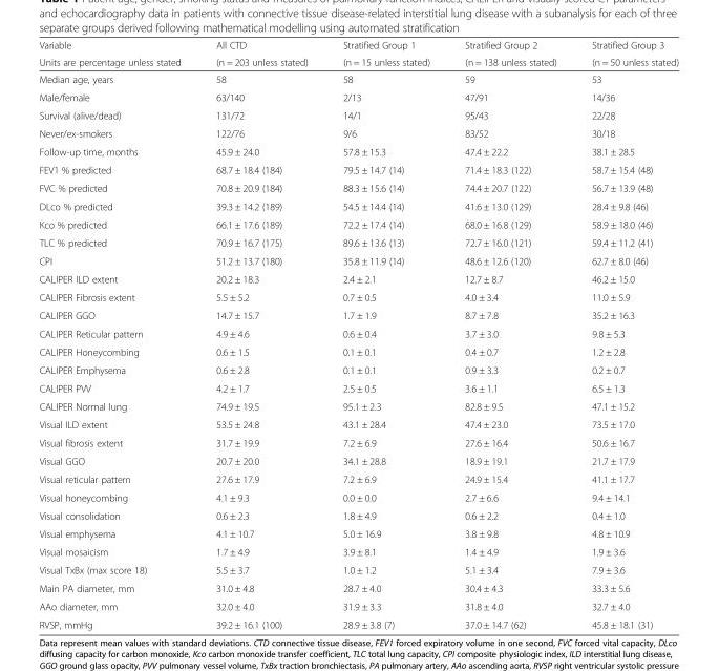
<table><thead><tr><td rowspan="2">Variable Units are percentage unless stated</td><td rowspan="2">All CTD (n = 203 unless stated)</td><td rowspan="2">Stratified Group 1 (n = 15 unless stated)</td><td rowspan="2">Stratified Group 2 (n = 138 unless stated)</td><td rowspan="2">Stratified Group 3 (n = 50 unless stated)</td></tr><tr></tr></thead><tbody><tr><td>Median age, years</td><td>58</td><td>58</td><td>59</td><td>53</td></tr><tr><td>Male/female</td><td>63/140</td><td>2/13</td><td>47/91</td><td>14/36</td></tr><tr><td>Survival (alive/dead)</td><td>131/72</td><td>14/1</td><td>95/43</td><td>22/28</td></tr><tr><td>Never/ex-smokers</td><td>122/76</td><td>9/6</td><td>83/52</td><td>30/18</td></tr><tr><td>Follow-up time, months</td><td>45.9 ± 24.0</td><td>57.8 ± 15.3</td><td>47.4 ± 22.2</td><td>38.1 ± 28.5</td></tr><tr><td>FEV1 % predicted</td><td>68.7 ± 18.4 (184)</td><td>79.5 ± 14.7 (14)</td><td>71.4 ± 18.3 (122)</td><td>58.7 ± 15.4 (48)</td></tr><tr><td>FVC % predicted</td><td>70.8 ± 20.9 (184)</td><td>88.3 ± 15.6 (14)</td><td>74.4 ± 20.7 (122)</td><td>56.7 ± 13.9 (48)</td></tr><tr><td>DLco % predicted</td><td>39.3 ± 14.2 (189)</td><td>54.5 ± 14.4 (14)</td><td>41.6 ± 13.0 (129)</td><td>28.4 ± 9.8 (46)</td></tr><tr><td>Kco % predicted</td><td>66.1 ± 17.6 (189)</td><td>72.2 ± 17.4 (14)</td><td>68.0 ± 16.8 (129)</td><td>58.9 ± 18.0 (46)</td></tr><tr><td>TLC % predicted</td><td>70.9 ± 16.7 (175)</td><td>89.6 ± 13.6 (13)</td><td>72.7 ± 16.0 (121)</td><td>59.4 ± 11.2 (41)</td></tr><tr><td>CPI</td><td>51.2 ± 13.7 (180)</td><td>35.8 ± 11.9 (14)</td><td>48.6 ± 12.6 (120)</td><td>62.7 ± 8.0 (46)</td></tr><tr><td>CALIPER ILD extent</td><td>20.2 ± 18.3</td><td>2.4 ± 2.1</td><td>12.7 ± 8.7</td><td>46.2 ± 15.0</td></tr><tr><td>CALIPER Fibrosis extent</td><td>5.5 ± 5.2</td><td>0.7 ± 0.5</td><td>4.0 ± 3.4</td><td>11.0 ± 5.9</td></tr><tr><td>CALIPER GGO</td><td>14.7 ± 15.7</td><td>1.7 ± 1.9</td><td>8.7 ± 7.8</td><td>35.2 ± 16.3</td></tr><tr><td>CALIPER Reticular pattern</td><td>4.9 ± 4.6</td><td>0.6 ± 0.4</td><td>3.7 ± 3.0</td><td>9.8 ± 5.3</td></tr><tr><td>CALIPER Honeycombing</td><td>0.6 ± 1.5</td><td>0.1 ± 0.1</td><td>0.4 ± 0.7</td><td>1.2 ± 2.8</td></tr><tr><td>CALIPER Emphysema</td><td>0.6 ± 2.8</td><td>0.1 ± 0.1</td><td>0.9 ± 3.3</td><td>0.2 ± 0.7</td></tr><tr><td>CALIPER PVV</td><td>4.2 ± 1.7</td><td>2.5 ± 0.5</td><td>3.6 ± 1.1</td><td>6.5 ± 1.3</td></tr><tr><td>CALIPER Normal lung</td><td>74.9 ± 19.5</td><td>95.1 ± 2.3</td><td>82.8 ± 9.5</td><td>47.1 ± 15.2</td></tr><tr><td>Visual ILD extent</td><td>53.5 ± 24.8</td><td>43.1 ± 28.4</td><td>47.4 ± 23.0</td><td>73.5 ± 17.0</td></tr><tr><td>Visual fibrosis extent</td><td>31.7 ± 19.9</td><td>7.2 ± 6.9</td><td>27.6 ± 16.4</td><td>50.6 ± 16.7</td></tr><tr><td>Visual GGO</td><td>20.7 ± 20.0</td><td>34.1 ± 28.8</td><td>18.9 ± 19.1</td><td>21.7 ± 17.9</td></tr><tr><td>Visual reticular pattern</td><td>27.6 ± 17.9</td><td>7.2 ± 6.9</td><td>24.9 ± 15.4</td><td>41.1 ± 17.7</td></tr><tr><td>Visual honeycombing</td><td>4.1 ± 9.3</td><td>0.0 ± 0.0</td><td>2.7 ± 6.6</td><td>9.4 ± 14.1</td></tr><tr><td>Visual consolidation</td><td>0.6 ± 2.3</td><td>1.8 ± 4.9</td><td>0.6 ± 2.2</td><td>0.4 ± 1.0</td></tr><tr><td>Visual emphysema</td><td>4.1 ± 10.7</td><td>5.0 ± 16.9</td><td>3.8 ± 9.8</td><td>4.8 ± 10.9</td></tr><tr><td>Visual mosaicism</td><td>1.7 ± 4.9</td><td>3.9 ± 8.1</td><td>1.4 ± 4.9</td><td>1.9 ± 3.6</td></tr><tr><td>Visual TxBx (max score 18)</td><td>5.5 ± 3.7</td><td>1.0 ± 1.2</td><td>5.1 ± 3.4</td><td>7.9 ± 3.6</td></tr><tr><td>Main PA diameter, mm</td><td>31.0 ± 4.8</td><td>28.7 ± 4.0</td><td>30.4 ± 4.3</td><td>33.3 ± 5.6</td></tr><tr><td>AAo diameter, mm</td><td>32.0 ± 4.0</td><td>31.9 ± 3.3</td><td>31.8 ± 4.0</td><td>32.7 ± 4.0</td></tr><tr><td>RVSP, mmHg</td><td>39.2 ± 16.1 (100)</td><td>28.9 ± 3.8 (7)</td><td>37.0 ± 14.7 (62)</td><td>45.8 ± 18.1 (31)</td></tr></tbody></table>